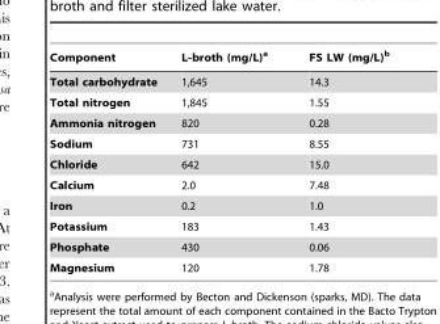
<table><thead><tr><td>Component</td><td>L-broth (mg/L)<sup>a</sup></td><td>FS LW (mg/L)<sup>b</sup></td></tr></thead><tbody><tr><td>Total carbohydrate</td><td>1,645</td><td>14.3</td></tr><tr><td>Total nitrogen</td><td>1,845</td><td>1.55</td></tr><tr><td>Ammonia nitrogen</td><td>820</td><td>0.28</td></tr><tr><td>Sodium</td><td>731</td><td>8.55</td></tr><tr><td>Chloride</td><td>642</td><td>15.0</td></tr><tr><td>Calcium</td><td>2.0</td><td>7.48</td></tr><tr><td>Iron</td><td>0.2</td><td>1.0</td></tr><tr><td>Potassium</td><td>183</td><td>1.43</td></tr><tr><td>Phosphate</td><td>430</td><td>0.06</td></tr><tr><td>Magnesium</td><td>120</td><td>1.78</td></tr></tbody></table>